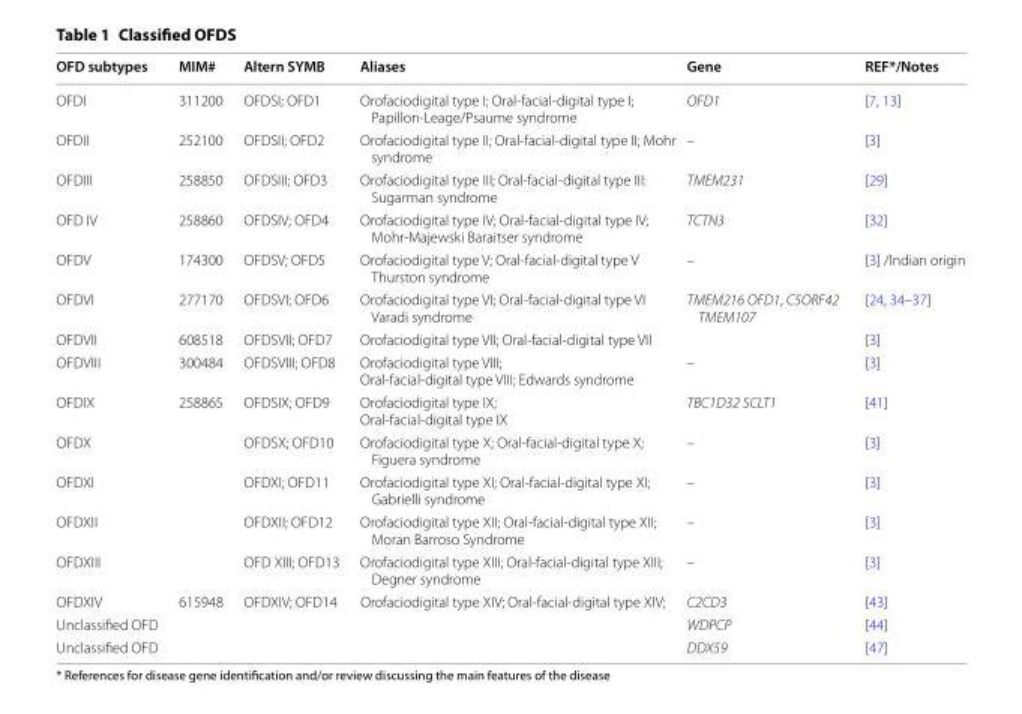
<table><thead><tr><td>OFD subtypes</td><td>MIM#</td><td>Altern SYMB</td><td>Aliases</td><td>Gene</td><td>REF*/Notes</td></tr></thead><tbody><tr><td>OFDI</td><td>311200</td><td>OFDSI; OFD1</td><td>Orofaciodigital type I; Oral‑facial‑digital type I; Papillon‑Leage/Psaume syndrome</td><td>OFD1</td><td>[7, 13]</td></tr><tr><td>OFDII</td><td>252100</td><td>OFDSII; OFD2</td><td>Orofaciodigital type II; Oral‑facial‑digital type II; Mohr syndrome</td><td>–</td><td>[3]</td></tr><tr><td>OFDIII</td><td>258850</td><td>OFDSIII; OFD3</td><td>Orofaciodigital type III; Oral‑facial‑digital type III: Sugarman syndrome</td><td>TMEM231</td><td>[29]</td></tr><tr><td>OFD IV</td><td>258860</td><td>OFDSIV; OFD4</td><td>Orofaciodigital type IV; Oral‑facial‑digital type IV; Mohr‑Majewski Baraitser syndrome</td><td>TCTN3</td><td>[32]</td></tr><tr><td>OFDV</td><td>174300</td><td>OFDSV; OFD5</td><td>Orofaciodigital type V; Oral‑facial‑digital type V Thurston syndrome</td><td>–</td><td>[3] /Indian origin</td></tr><tr><td>OFDVI</td><td>277170</td><td>OFDSVI; OFD6</td><td>Orofaciodigital type VI; Oral‑facial‑digital type VI Varadi syndrome</td><td>TMEM216 OFD1, C5ORF42 TMEM107</td><td>[24, 34–37]</td></tr><tr><td>OFDVII</td><td>608518</td><td>OFDSVII; OFD7</td><td>Orofaciodigital type VII; Oral‑facial‑digital type VII</td><td></td><td>[3]</td></tr><tr><td>OFDVIII</td><td>300484</td><td>OFDSVIII; OFD8</td><td>Orofaciodigital type VIII; Oral‑facial‑digital type VIII; Edwards syndrome</td><td>–</td><td>[3]</td></tr><tr><td>OFDIX</td><td>258865</td><td>OFDSIX; OFD9</td><td>Orofaciodigital type IX; Oral‑facial‑digital type IX</td><td>TBC1D32 SCLT1</td><td>[41]</td></tr><tr><td>OFDX</td><td></td><td>OFDSX; OFD10</td><td>Orofaciodigital type X; Oral‑facial‑digital type X; Figuera syndrome</td><td>–</td><td>[3]</td></tr><tr><td>OFDXI</td><td></td><td>OFDXI; OFD11</td><td>Orofaciodigital type XI; Oral‑facial‑digital type XI; Gabrielli syndrome</td><td>–</td><td>[3]</td></tr><tr><td>OFDXII</td><td></td><td>OFDXII; OFD12</td><td>Orofaciodigital type XII; Oral‑facial‑digital type XII; Moran Barroso Syndrome</td><td>–</td><td>[3]</td></tr><tr><td>OFDXIII</td><td></td><td>OFD XIII; OFD13</td><td>Orofaciodigital type XIII; Oral‑facial‑digital type XIII; Degner syndrome</td><td>–</td><td>[3]</td></tr><tr><td>OFDXIV</td><td>615948</td><td>OFDXIV; OFD14</td><td>Orofaciodigital type XIV; Oral‑facial‑digital type XIV;</td><td>C2CD3</td><td>[43]</td></tr><tr><td>Unclassified OFD</td><td></td><td></td><td></td><td>WDPCP</td><td>[44]</td></tr><tr><td>Unclassified OFD</td><td></td><td></td><td></td><td>DDX59</td><td>[47]</td></tr></tbody></table>